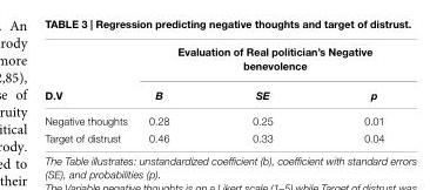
<table><thead><tr><td rowspan="2">D.V</td><td colspan="3">Evaluation of Real politician’s Negative benevolence</td></tr><tr><td>B</td><td>SE</td><td>p</td></tr></thead><tbody><tr><td>Negative thoughts</td><td>0.28</td><td>0.25</td><td>0.01</td></tr><tr><td>Target of distrust</td><td>0.46</td><td>0.33</td><td>0.04</td></tr></tbody></table>